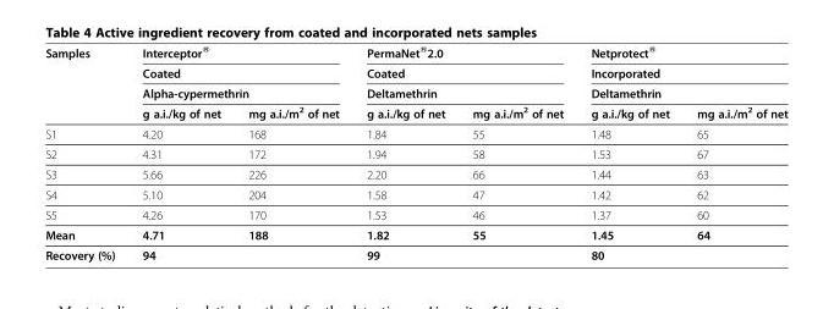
<table><thead><tr><td rowspan="4">Samples</td><td rowspan="3" colspan="2">Interceptor<sup>®</sup> Coated Alpha-cypermethrin</td><td rowspan="3" colspan="2">PermaNet<sup>®</sup>2.0 Coated Deltamethrin</td><td rowspan="3" colspan="2">Netprotect<sup>®</sup> Incorporated Deltamethrin</td></tr><tr></tr><tr></tr><tr><td>g a.i./kg of net</td><td>mg a.i./m<sup>2</sup> of net</td><td>g a.i./kg of net</td><td>mg a.i./m<sup>2</sup> of net</td><td>g a.i./kg of net</td><td>mg a.i./m<sup>2</sup> of net</td></tr></thead><tbody><tr><td>S1</td><td>4.20</td><td>168</td><td>1.84</td><td>55</td><td>1.48</td><td>65</td></tr><tr><td>S2</td><td>4.31</td><td>172</td><td>1.94</td><td>58</td><td>1.53</td><td>67</td></tr><tr><td>S3</td><td>5.66</td><td>226</td><td>2.20</td><td>66</td><td>1.44</td><td>63</td></tr><tr><td>S4</td><td>5.10</td><td>204</td><td>1.58</td><td>47</td><td>1.42</td><td>62</td></tr><tr><td>S5</td><td>4.26</td><td>170</td><td>1.53</td><td>46</td><td>1.37</td><td>60</td></tr><tr><td>Mean</td><td>4.71</td><td>188</td><td>1.82</td><td>55</td><td>1.45</td><td>64</td></tr><tr><td>Recovery (%)</td><td colspan="2">94</td><td colspan="2">99</td><td colspan="2">80</td></tr></tbody></table>